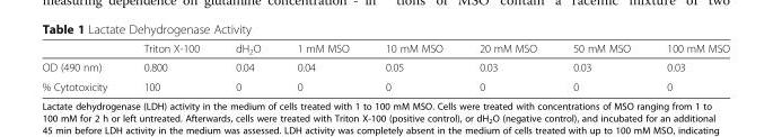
<table><thead><tr><td></td><td>Triton X-100</td><td>dH<sub>2</sub>O</td><td>1 mM MSO</td><td>10 mM MSO</td><td>20 mM MSO</td><td>50 mM MSO</td><td>100 mM MSO</td></tr></thead><tbody><tr><td>OD (490 nm)</td><td>0.800</td><td>0.04</td><td>0.04</td><td>0.05</td><td>0.03</td><td>0.03</td><td>0.03</td></tr><tr><td>% Cytotoxicity</td><td>100</td><td>0</td><td>0</td><td>0</td><td>0</td><td>0</td><td>0</td></tr></tbody></table>